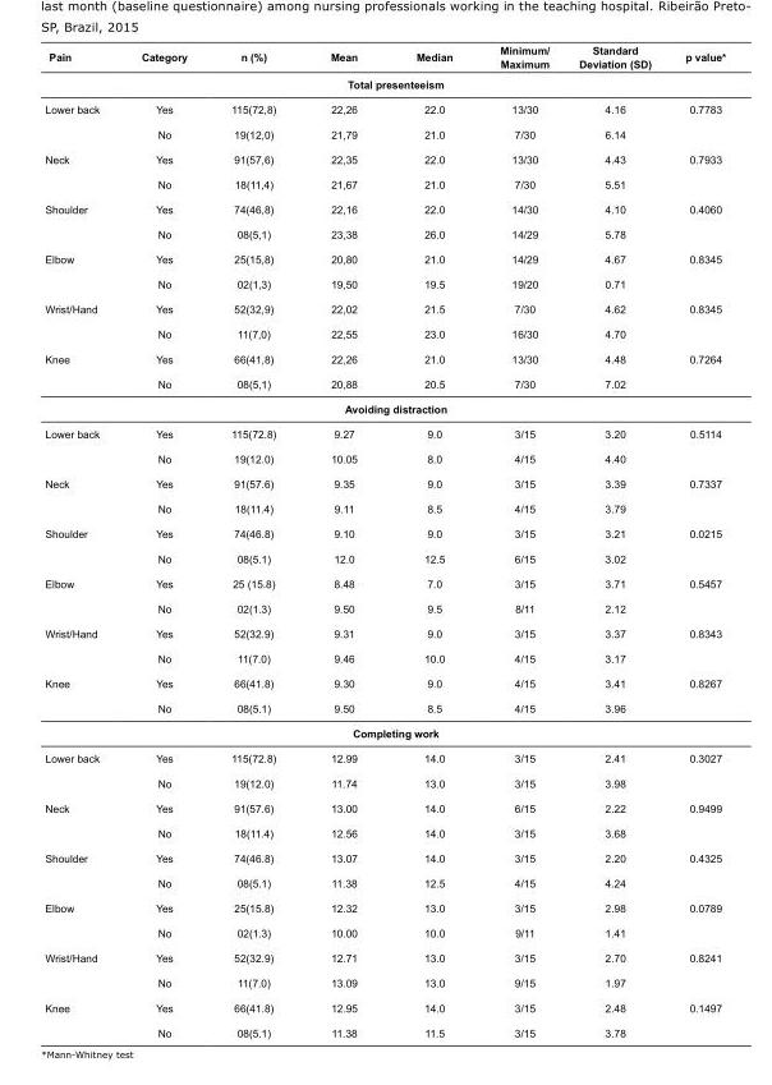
<table><tbody><tr><td>Pain</td><td>Category</td><td>n (%)</td><td>Mean</td><td>Median</td><td>Minimum/ Maximum</td><td>Standard Deviation (SD)</td><td>p value*</td></tr><tr><td colspan="8">Total presenteeism</td></tr><tr><td rowspan="2">Lower back</td><td>Yes</td><td>115(72,8)</td><td>22,26</td><td>22.0</td><td>13/30</td><td>4.16</td><td>0.7783</td></tr><tr><td>No</td><td>19(12,0)</td><td>21,79</td><td>21.0</td><td>7/30</td><td>6.14</td><td></td></tr><tr><td rowspan="2">Neck</td><td>Yes</td><td>91(57,6)</td><td>22,35</td><td>22.0</td><td>13/30</td><td>4.43</td><td>0.7933</td></tr><tr><td>No</td><td>18(11,4)</td><td>21,67</td><td>21.0</td><td>7/30</td><td>5.51</td><td></td></tr><tr><td rowspan="2">Shoulder</td><td>Yes</td><td>74(46,8)</td><td>22,16</td><td>22.0</td><td>14/30</td><td>4.10</td><td>0.4060</td></tr><tr><td>No</td><td>08(5,1)</td><td>23,38</td><td>26.0</td><td>14/29</td><td>5.78</td><td></td></tr><tr><td rowspan="2">Elbow</td><td>Yes</td><td>25(15,8)</td><td>20,80</td><td>21.0</td><td>14/29</td><td>4.67</td><td>0.8345</td></tr><tr><td>No</td><td>02(1,3)</td><td>19,50</td><td>19.5</td><td>19/20</td><td>0.71</td><td></td></tr><tr><td rowspan="2">Wrist/Hand</td><td>Yes</td><td>52(32,9)</td><td>22,02</td><td>21.5</td><td>7/30</td><td>4.62</td><td>0.8345</td></tr><tr><td>No</td><td>11(7,0)</td><td>22,55</td><td>23.0</td><td>16/30</td><td>4.70</td><td></td></tr><tr><td rowspan="2">Knee</td><td>Yes</td><td>66(41,8)</td><td>22,26</td><td>21.0</td><td>13/30</td><td>4.48</td><td>0.7264</td></tr><tr><td>No</td><td>08(5,1)</td><td>20,88</td><td>20.5</td><td>7/30</td><td>7.02</td><td></td></tr><tr><td colspan="8">Avoiding distraction</td></tr><tr><td rowspan="2">Lower back</td><td>Yes</td><td>115(72.8)</td><td>9.27</td><td>9.0</td><td>3/15</td><td>3.20</td><td>0.5114</td></tr><tr><td>No</td><td>19(12.0)</td><td>10.05</td><td>8.0</td><td>4/15</td><td>4.40</td><td></td></tr><tr><td rowspan="2">Neck</td><td>Yes</td><td>91(57.6)</td><td>9.35</td><td>9.0</td><td>3/15</td><td>3.39</td><td>0.7337</td></tr><tr><td>No</td><td>18(11.4)</td><td>9.11</td><td>8.5</td><td>4/15</td><td>3.79</td><td></td></tr><tr><td rowspan="2">Shoulder</td><td>Yes</td><td>74(46.8)</td><td>9.10</td><td>9.0</td><td>3/15</td><td>3.21</td><td>0.0215</td></tr><tr><td>No</td><td>08(5.1)</td><td>12.0</td><td>12.5</td><td>6/15</td><td>3.02</td><td></td></tr><tr><td rowspan="2">Elbow</td><td>Yes</td><td>25 (15.8)</td><td>8.48</td><td>7.0</td><td>3/15</td><td>3.71</td><td>0.5457</td></tr><tr><td>No</td><td>02(1.3)</td><td>9.50</td><td>9.5</td><td>8/11</td><td>2.12</td><td></td></tr><tr><td rowspan="2">Wrist/Hand</td><td>Yes</td><td>52(32.9)</td><td>9.31</td><td>9.0</td><td>3/15</td><td>3.37</td><td>0.8343</td></tr><tr><td>No</td><td>11(7.0)</td><td>9.46</td><td>10.0</td><td>4/15</td><td>3.17</td><td></td></tr><tr><td rowspan="2">Knee</td><td>Yes</td><td>66(41.8)</td><td>9.30</td><td>9.0</td><td>4/15</td><td>3.41</td><td>0.8267</td></tr><tr><td>No</td><td>08(5.1)</td><td>9.50</td><td>8.5</td><td>4/15</td><td>3.96</td><td></td></tr><tr><td colspan="8">Completing work</td></tr><tr><td rowspan="2">Lower back</td><td>Yes</td><td>115(72.8)</td><td>12.99</td><td>14.0</td><td>3/15</td><td>2.41</td><td>0.3027</td></tr><tr><td>No</td><td>19(12.0)</td><td>11.74</td><td>13.0</td><td>3/15</td><td>3.98</td><td></td></tr><tr><td rowspan="2">Neck</td><td>Yes</td><td>91(57.6)</td><td>13.00</td><td>14.0</td><td>6/15</td><td>2.22</td><td>0.9499</td></tr><tr><td>No</td><td>18(11.4)</td><td>12.56</td><td>14.0</td><td>3/15</td><td>3.68</td><td></td></tr><tr><td rowspan="2">Shoulder</td><td>Yes</td><td>74(46.8)</td><td>13.07</td><td>14.0</td><td>3/15</td><td>2.20</td><td>0.4325</td></tr><tr><td>No</td><td>08(5.1)</td><td>11.38</td><td>12.5</td><td>4/15</td><td>4.24</td><td></td></tr><tr><td rowspan="2">Elbow</td><td>Yes</td><td>25(15.8)</td><td>12.32</td><td>13.0</td><td>3/15</td><td>2.98</td><td>0.0789</td></tr><tr><td>No</td><td>02(1.3)</td><td>10.00</td><td>10.0</td><td>9/11</td><td>1.41</td><td></td></tr><tr><td rowspan="2">Wrist/Hand</td><td>Yes</td><td>52(32.9)</td><td>12.71</td><td>13.0</td><td>3/15</td><td>2.70</td><td>0.8241</td></tr><tr><td>No</td><td>11(7.0)</td><td>13.09</td><td>13.0</td><td>9/15</td><td>1.97</td><td></td></tr><tr><td rowspan="2">Knee</td><td>Yes</td><td>66(41.8)</td><td>12.95</td><td>14.0</td><td>3/15</td><td>2.48</td><td>0.1497</td></tr><tr><td>No</td><td>08(5.1)</td><td>11.38</td><td>11.5</td><td>3/15</td><td>3.78</td><td></td></tr></tbody></table>